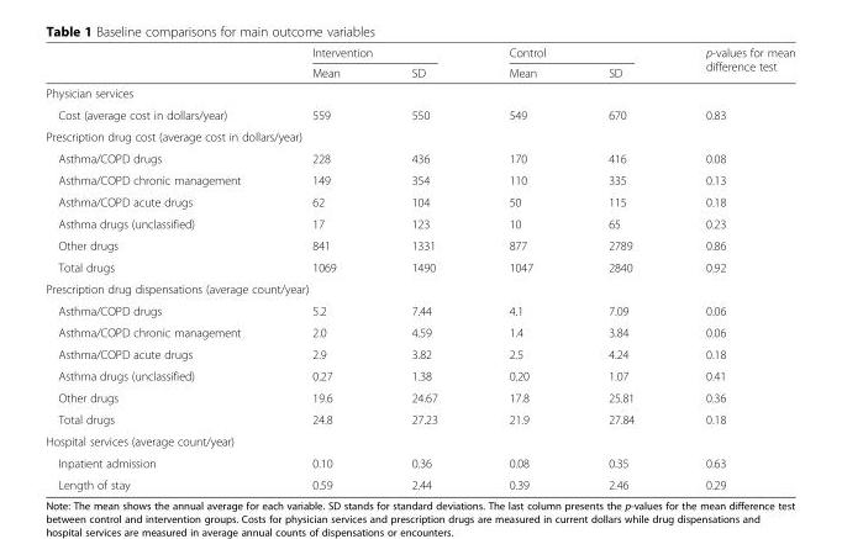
<table><thead><tr><td rowspan="2"></td><td colspan="2">Intervention</td><td colspan="2">Control</td><td rowspan="2">p-values for mean difference test</td></tr><tr><td>Mean</td><td>SD</td><td>Mean</td><td>SD</td></tr></thead><tbody><tr><td colspan="6">Physician services</td></tr><tr><td>Cost (average cost in dollars/year)</td><td>559</td><td>550</td><td>549</td><td>670</td><td>0.83</td></tr><tr><td colspan="6">Prescription drug cost (average cost in dollars/year)</td></tr><tr><td>Asthma/COPD drugs</td><td>228</td><td>436</td><td>170</td><td>416</td><td>0.08</td></tr><tr><td>Asthma/COPD chronic management</td><td>149</td><td>354</td><td>110</td><td>335</td><td>0.13</td></tr><tr><td>Asthma/COPD acute drugs</td><td>62</td><td>104</td><td>50</td><td>115</td><td>0.18</td></tr><tr><td>Asthma drugs (unclassified)</td><td>17</td><td>123</td><td>10</td><td>65</td><td>0.23</td></tr><tr><td>Other drugs</td><td>841</td><td>1331</td><td>877</td><td>2789</td><td>0.86</td></tr><tr><td>Total drugs</td><td>1069</td><td>1490</td><td>1047</td><td>2840</td><td>0.92</td></tr><tr><td colspan="6">Prescription drug dispensations (average count/year)</td></tr><tr><td>Asthma/COPD drugs</td><td>5.2</td><td>7.44</td><td>4.1</td><td>7.09</td><td>0.06</td></tr><tr><td>Asthma/COPD chronic management</td><td>2.0</td><td>4.59</td><td>1.4</td><td>3.84</td><td>0.06</td></tr><tr><td>Asthma/COPD acute drugs</td><td>2.9</td><td>3.82</td><td>2.5</td><td>4.24</td><td>0.18</td></tr><tr><td>Asthma drugs (unclassified)</td><td>0.27</td><td>1.38</td><td>0.20</td><td>1.07</td><td>0.41</td></tr><tr><td>Other drugs</td><td>19.6</td><td>24.67</td><td>17.8</td><td>25.81</td><td>0.36</td></tr><tr><td>Total drugs</td><td>24.8</td><td>27.23</td><td>21.9</td><td>27.84</td><td>0.18</td></tr><tr><td colspan="6">Hospital services (average count/year)</td></tr><tr><td>Inpatient admission</td><td>0.10</td><td>0.36</td><td>0.08</td><td>0.35</td><td>0.63</td></tr><tr><td>Length of stay</td><td>0.59</td><td>2.44</td><td>0.39</td><td>2.46</td><td>0.29</td></tr></tbody></table>